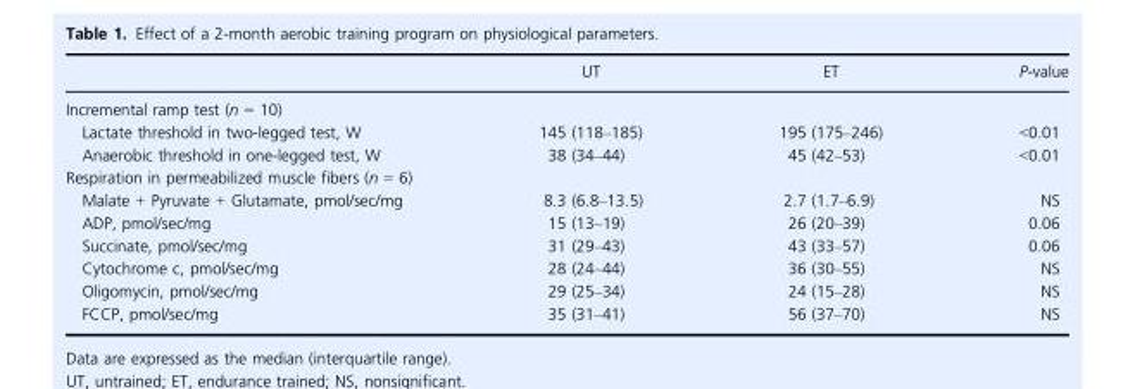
<table><thead><tr><td></td><td>UT</td><td>ET</td><td>P-value</td></tr></thead><tbody><tr><td colspan="4">Incremental ramp test (n = 10)</td></tr><tr><td>Lactate threshold in two-legged test, W</td><td>145 (118–185)</td><td>195 (175–246)</td><td>&lt;0.01</td></tr><tr><td>Anaerobic threshold in one-legged test, W</td><td>38 (34–44)</td><td>45 (42–53)</td><td>&lt;0.01</td></tr><tr><td colspan="4">Respiration in permeabilized muscle fibers (n = 6)</td></tr><tr><td>Malate + Pyruvate + Glutamate, pmol/sec/mg</td><td>8.3 (6.8–13.5)</td><td>2.7 (1.7–6.9)</td><td>NS</td></tr><tr><td>ADP, pmol/sec/mg</td><td>15 (13–19)</td><td>26 (20–39)</td><td>0.06</td></tr><tr><td>Succinate, pmol/sec/mg</td><td>31 (29–43)</td><td>43 (33–57)</td><td>0.06</td></tr><tr><td>Cytochrome c, pmol/sec/mg</td><td>28 (24–44)</td><td>36 (30–55)</td><td>NS</td></tr><tr><td>Oligomycin, pmol/sec/mg</td><td>29 (25–34)</td><td>24 (15–28)</td><td>NS</td></tr><tr><td>FCCP, pmol/sec/mg</td><td>35 (31–41)</td><td>56 (37–70)</td><td>NS</td></tr></tbody></table>